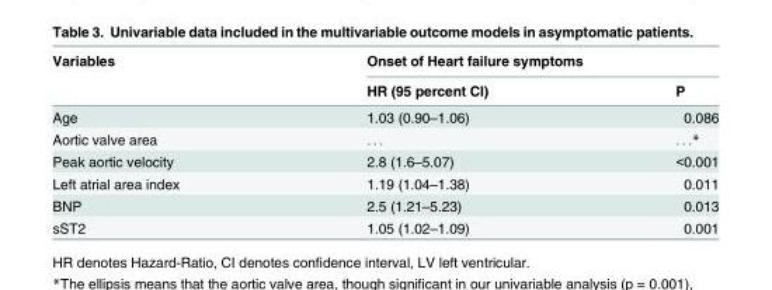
<table><thead><tr><td rowspan="2">Variables</td><td colspan="2">Onset of Heart failure symptoms</td></tr><tr><td>HR (95 percent CI)</td><td>P</td></tr></thead><tbody><tr><td>Age</td><td>1.03 (0.90–1.06)</td><td>0.086</td></tr><tr><td>Aortic valve area</td><td>. . .</td><td>. . .*</td></tr><tr><td>Peak aortic velocity</td><td>2.8 (1.6–5.07)</td><td>&lt;0.001</td></tr><tr><td>Left atrial area index</td><td>1.19 (1.04–1.38)</td><td>0.011</td></tr><tr><td>BNP</td><td>2.5 (1.21–5.23)</td><td>0.013</td></tr><tr><td>sST2</td><td>1.05 (1.02–1.09)</td><td>0.001</td></tr></tbody></table>